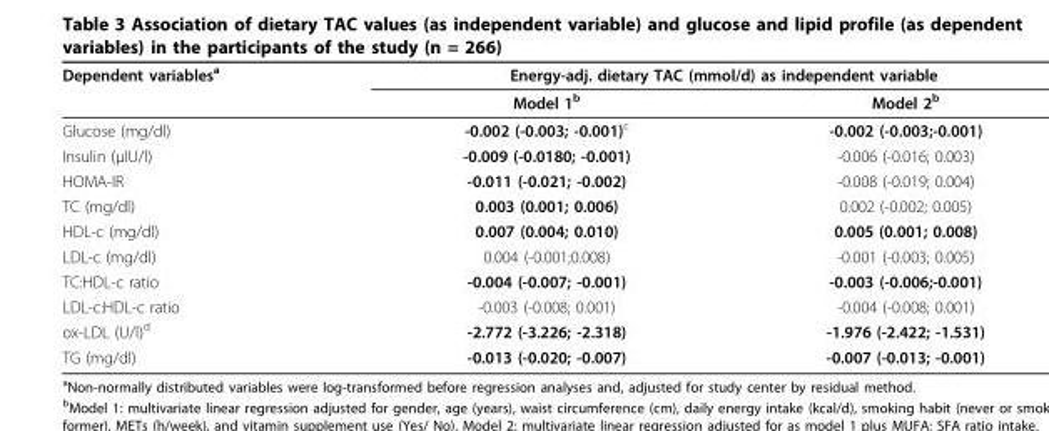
<table><thead><tr><td rowspan="2">Dependent variables<sup>a</sup></td><td colspan="2">Energy-adj. dietary TAC (mmol/d) as independent variable</td></tr><tr><td>Model 1<sup>b</sup></td><td>Model 2<sup>b</sup></td></tr></thead><tbody><tr><td>Glucose (mg/dl)</td><td>-0.002 (-0.003; -0.001)<sup>c</sup></td><td>-0.002 (-0.003;-0.001)</td></tr><tr><td>Insulin (μIU/l)</td><td>-0.009 (-0.0180; -0.001)</td><td>-0.006 (-0.016; 0.003)</td></tr><tr><td>HOMA-IR</td><td>-0.011 (-0.021; -0.002)</td><td>-0.008 (-0.019; 0.004)</td></tr><tr><td>TC (mg/dl)</td><td>0.003 (0.001; 0.006)</td><td>0.002 (-0.002; 0.005)</td></tr><tr><td>HDL-c (mg/dl)</td><td>0.007 (0.004; 0.010)</td><td>0.005 (0.001; 0.008)</td></tr><tr><td>LDL-c (mg/dl)</td><td>0.004 (-0.001;0.008)</td><td>-0.001 (-0.003; 0.005)</td></tr><tr><td>TC:HDL-c ratio</td><td>-0.004 (-0.007; -0.001)</td><td>-0.003 (-0.006;-0.001)</td></tr><tr><td>LDL-c:HDL-c ratio</td><td>-0.003 (-0.008; 0.001)</td><td>-0.004 (-0.008; 0.001)</td></tr><tr><td>ox-LDL (U/l)<sup>d</sup></td><td>-2.772 (-3.226; -2.318)</td><td>-1.976 (-2.422; -1.531)</td></tr><tr><td>TG (mg/dl)</td><td>-0.013 (-0.020; -0.007)</td><td>-0.007 (-0.013; -0.001)</td></tr></tbody></table>